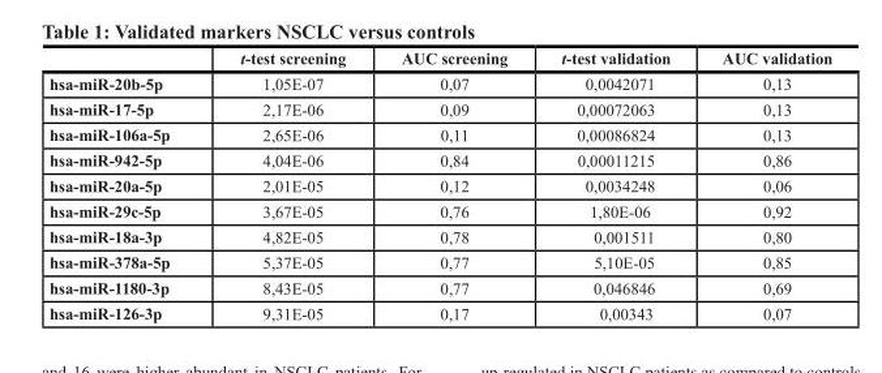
<table><thead><tr><td></td><td>t-test screening</td><td>AUC screening</td><td>t-test validation</td><td>AUC validation</td></tr></thead><tbody><tr><td>hsa-miR-20b-5p</td><td>1,05E-07</td><td>0,07</td><td>0,0042071</td><td>0,13</td></tr><tr><td>hsa-miR-17-5p</td><td>2,17E-06</td><td>0,09</td><td>0,00072063</td><td>0,13</td></tr><tr><td>hsa-miR-106a-5p</td><td>2,65E-06</td><td>0,11</td><td>0,00086824</td><td>0,13</td></tr><tr><td>hsa-miR-942-5p</td><td>4,04E-06</td><td>0,84</td><td>0,00011215</td><td>0,86</td></tr><tr><td>hsa-miR-20a-5p</td><td>2,01E-05</td><td>0,12</td><td>0,0034248</td><td>0,06</td></tr><tr><td>hsa-miR-29c-5p</td><td>3,67E-05</td><td>0,76</td><td>1,80E-06</td><td>0,92</td></tr><tr><td>hsa-miR-18a-3p</td><td>4,82E-05</td><td>0,78</td><td>0,001511</td><td>0,80</td></tr><tr><td>hsa-miR-378a-5p</td><td>5,37E-05</td><td>0,77</td><td>5,10E-05</td><td>0,85</td></tr><tr><td>hsa-miR-1180-3p</td><td>8,43E-05</td><td>0,77</td><td>0,046846</td><td>0,69</td></tr><tr><td>hsa-miR-126-3p</td><td>9,31E-05</td><td>0,17</td><td>0,00343</td><td>0,07</td></tr></tbody></table>